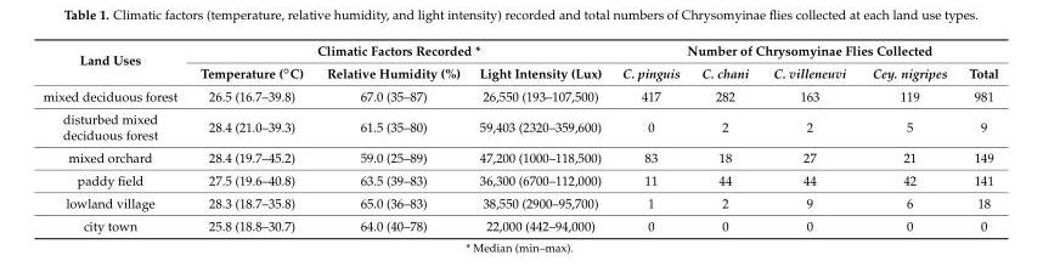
<table><thead><tr><td rowspan="2">Land Uses</td><td colspan="3">Climatic Factors Recorded *</td><td colspan="5">Number of Chrysomyinae Flies Collected</td></tr><tr><td>Temperature (◦C)</td><td>Relative Humidity (%)</td><td>Light Intensity (Lux)</td><td>C. pinguis</td><td>C. chani</td><td>C. villeneuvi</td><td>Cey. nigripes</td><td>Total</td></tr></thead><tbody><tr><td>mixed deciduous forest</td><td>26.5 (16.7–39.8)</td><td>67.0 (35–87)</td><td>26,550 (193–107,500)</td><td>417</td><td>282</td><td>163</td><td>119</td><td>981</td></tr><tr><td>disturbed mixed deciduous forest</td><td>28.4 (21.0–39.3)</td><td>61.5 (35–80)</td><td>59,403 (2320–359,600)</td><td>0</td><td>2</td><td>2</td><td>5</td><td>9</td></tr><tr><td>mixed orchard</td><td>28.4 (19.7–45.2)</td><td>59.0 (25–89)</td><td>47,200 (1000–118,500)</td><td>83</td><td>18</td><td>27</td><td>21</td><td>149</td></tr><tr><td>paddy field</td><td>27.5 (19.6–40.8)</td><td>63.5 (39–83)</td><td>36,300 (6700–112,000)</td><td>11</td><td>44</td><td>44</td><td>42</td><td>141</td></tr><tr><td>lowland village</td><td>28.3 (18.7–35.8)</td><td>65.0 (36–83)</td><td>38,550 (2900–95,700)</td><td>1</td><td>2</td><td>9</td><td>6</td><td>18</td></tr><tr><td>city town</td><td>25.8 (18.8–30.7)</td><td>64.0 (40–78)</td><td>22,000 (442–94,000)</td><td>0</td><td>0</td><td>0</td><td>0</td><td>0</td></tr></tbody></table>